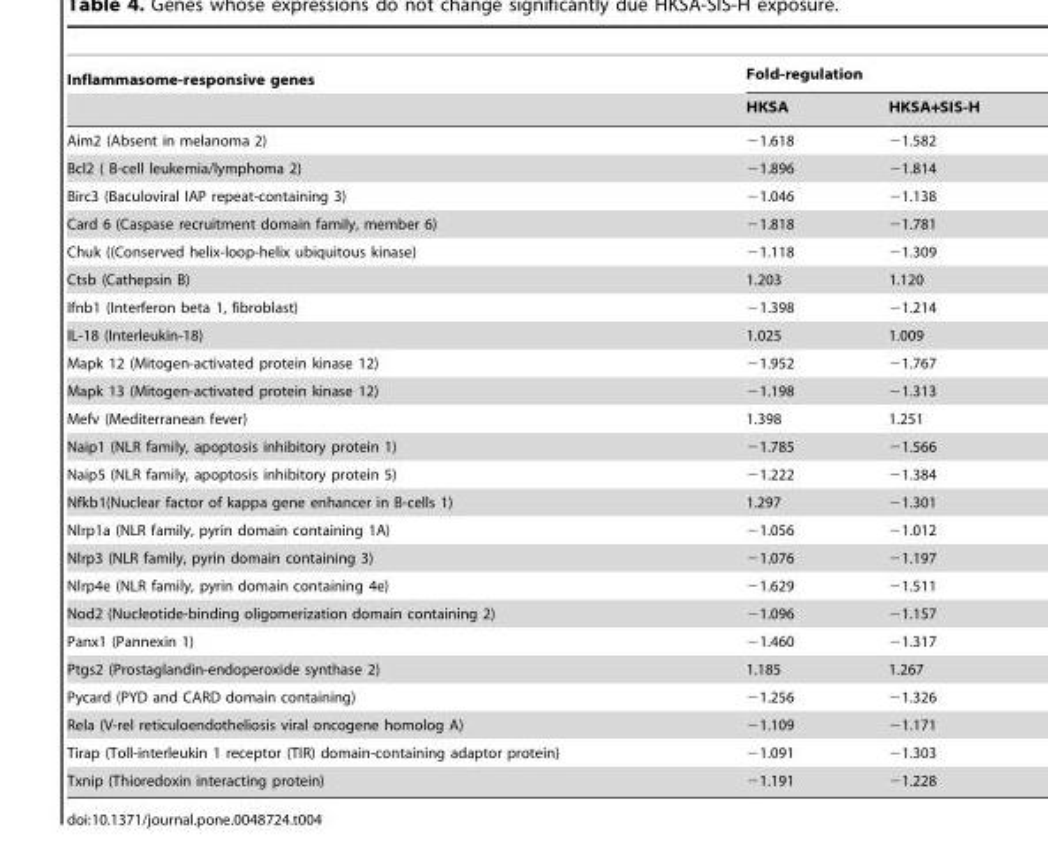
<table><thead><tr><td rowspan="2">Inflammasome-responsive genes</td><td colspan="2">Fold-regulation</td></tr><tr><td>HKSA</td><td>HKSA+SIS-H</td></tr></thead><tbody><tr><td>Aim2 (Absent in melanoma 2)</td><td>−1.618</td><td>−1.582</td></tr><tr><td>Bcl2 ( B-cell leukemia/lymphoma 2)</td><td>−1.896</td><td>−1.814</td></tr><tr><td>Birc3 (Baculoviral IAP repeat-containing 3)</td><td>−1.046</td><td>−1.138</td></tr><tr><td>Card 6 (Caspase recruitment domain family, member 6)</td><td>−1.818</td><td>−1.781</td></tr><tr><td>Chuk ((Conserved helix-loop-helix ubiquitous kinase)</td><td>−1.118</td><td>−1.309</td></tr><tr><td>Ctsb (Cathepsin B)</td><td>1.203</td><td>1.120</td></tr><tr><td>Ifnb1 (Interferon beta 1, fibroblast)</td><td>−1.398</td><td>−1.214</td></tr><tr><td>IL-18 (Interleukin-18)</td><td>1.025</td><td>1.009</td></tr><tr><td>Mapk 12 (Mitogen-activated protein kinase 12)</td><td>−1.952</td><td>−1.767</td></tr><tr><td>Mapk 13 (Mitogen-activated protein kinase 12)</td><td>−1.198</td><td>−1.313</td></tr><tr><td>Mefv (Mediterranean fever)</td><td>1.398</td><td>1.251</td></tr><tr><td>Naip1 (NLR family, apoptosis inhibitory protein 1)</td><td>−1.785</td><td>−1.566</td></tr><tr><td>Naip5 (NLR family, apoptosis inhibitory protein 5)</td><td>−1.222</td><td>−1.384</td></tr><tr><td>Nfkb1(Nuclear factor of kappa gene enhancer in B-cells 1)</td><td>1.297</td><td>−1.301</td></tr><tr><td>Nlrp1a (NLR family, pyrin domain containing 1A)</td><td>−1.056</td><td>−1.012</td></tr><tr><td>Nlrp3 (NLR family, pyrin domain containing 3)</td><td>−1.076</td><td>−1.197</td></tr><tr><td>Nlrp4e (NLR family, pyrin domain containing 4e)</td><td>−1.629</td><td>−1.511</td></tr><tr><td>Nod2 (Nucleotide-binding oligomerization domain containing 2)</td><td>−1.096</td><td>−1.157</td></tr><tr><td>Panx1 (Pannexin 1)</td><td>−1.460</td><td>−1.317</td></tr><tr><td>Ptgs2 (Prostaglandin-endoperoxide synthase 2)</td><td>1.185</td><td>1.267</td></tr><tr><td>Pycard (PYD and CARD domain containing)</td><td>−1.256</td><td>−1.326</td></tr><tr><td>Rela (V-rel reticuloendotheliosis viral oncogene homolog A)</td><td>−1.109</td><td>−1.171</td></tr><tr><td>Tirap (Toll-interleukin 1 receptor (TIR) domain-containing adaptor protein)</td><td>−1.091</td><td>−1.303</td></tr><tr><td>Txnip (Thioredoxin interacting protein)</td><td>−1.191</td><td>−1.228</td></tr></tbody></table>